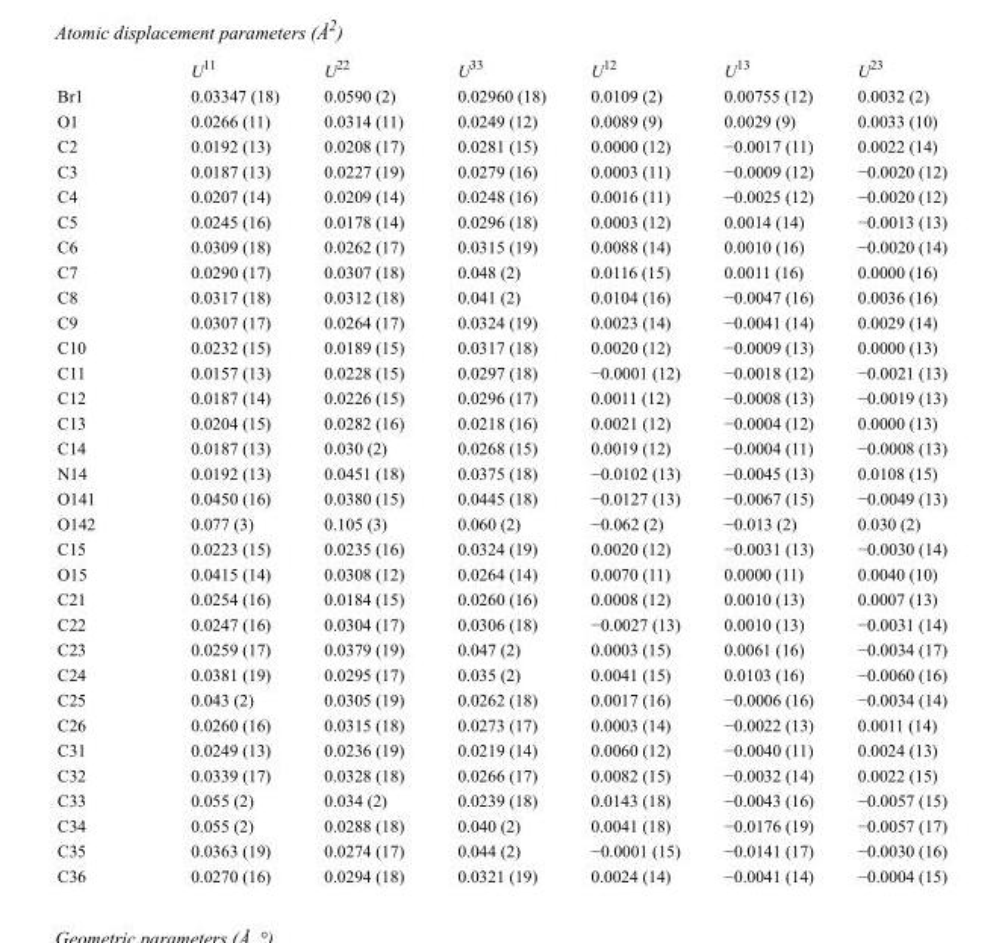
<table><thead><tr><td></td><td>U<sup>11</sup></td><td>U<sup>22</sup></td><td>U<sup>33</sup></td><td>U<sup>12</sup></td><td>U<sup>13</sup></td><td>U<sup>23</sup></td></tr></thead><tbody><tr><td>Br1</td><td>0.03347 (18)</td><td>0.0590 (2)</td><td>0.02960 (18)</td><td>0.0109 (2)</td><td>0.00755 (12)</td><td>0.0032 (2)</td></tr><tr><td>O1</td><td>0.0266 (11)</td><td>0.0314 (11)</td><td>0.0249 (12)</td><td>0.0089 (9)</td><td>0.0029 (9)</td><td>0.0033 (10)</td></tr><tr><td>C2</td><td>0.0192 (13)</td><td>0.0208 (17)</td><td>0.0281 (15)</td><td>0.0000 (12)</td><td>−0.0017 (11)</td><td>0.0022 (14)</td></tr><tr><td>C3</td><td>0.0187 (13)</td><td>0.0227 (19)</td><td>0.0279 (16)</td><td>0.0003 (11)</td><td>−0.0009 (12)</td><td>−0.0020 (12)</td></tr><tr><td>C4</td><td>0.0207 (14)</td><td>0.0209 (14)</td><td>0.0248 (16)</td><td>0.0016 (11)</td><td>−0.0025 (12)</td><td>−0.0020 (12)</td></tr><tr><td>C5</td><td>0.0245 (16)</td><td>0.0178 (14)</td><td>0.0296 (18)</td><td>0.0003 (12)</td><td>0.0014 (14)</td><td>−0.0013 (13)</td></tr><tr><td>C6</td><td>0.0309 (18)</td><td>0.0262 (17)</td><td>0.0315 (19)</td><td>0.0088 (14)</td><td>0.0010 (16)</td><td>−0.0020 (14)</td></tr><tr><td>C7</td><td>0.0290 (17)</td><td>0.0307 (18)</td><td>0.048 (2)</td><td>0.0116 (15)</td><td>0.0011 (16)</td><td>0.0000 (16)</td></tr><tr><td>C8</td><td>0.0317 (18)</td><td>0.0312 (18)</td><td>0.041 (2)</td><td>0.0104 (16)</td><td>−0.0047 (16)</td><td>0.0036 (16)</td></tr><tr><td>C9</td><td>0.0307 (17)</td><td>0.0264 (17)</td><td>0.0324 (19)</td><td>0.0023 (14)</td><td>−0.0041 (14)</td><td>0.0029 (14)</td></tr><tr><td>C10</td><td>0.0232 (15)</td><td>0.0189 (15)</td><td>0.0317 (18)</td><td>0.0020 (12)</td><td>−0.0009 (13)</td><td>0.0000 (13)</td></tr><tr><td>C11</td><td>0.0157 (13)</td><td>0.0228 (15)</td><td>0.0297 (18)</td><td>−0.0001 (12)</td><td>−0.0018 (12)</td><td>−0.0021 (13)</td></tr><tr><td>C12</td><td>0.0187 (14)</td><td>0.0226 (15)</td><td>0.0296 (17)</td><td>0.0011 (12)</td><td>−0.0008 (13)</td><td>−0.0019 (13)</td></tr><tr><td>C13</td><td>0.0204 (15)</td><td>0.0282 (16)</td><td>0.0218 (16)</td><td>0.0021 (12)</td><td>−0.0004 (12)</td><td>0.0000 (13)</td></tr><tr><td>C14</td><td>0.0187 (13)</td><td>0.030 (2)</td><td>0.0268 (15)</td><td>0.0019 (12)</td><td>−0.0004 (11)</td><td>−0.0008 (13)</td></tr><tr><td>N14</td><td>0.0192 (13)</td><td>0.0451 (18)</td><td>0.0375 (18)</td><td>−0.0102 (13)</td><td>−0.0045 (13)</td><td>0.0108 (15)</td></tr><tr><td>O141</td><td>0.0450 (16)</td><td>0.0380 (15)</td><td>0.0445 (18)</td><td>−0.0127 (13)</td><td>−0.0067 (15)</td><td>−0.0049 (13)</td></tr><tr><td>O142</td><td>0.077 (3)</td><td>0.105 (3)</td><td>0.060 (2)</td><td>−0.062 (2)</td><td>−0.013 (2)</td><td>0.030 (2)</td></tr><tr><td>C15</td><td>0.0223 (15)</td><td>0.0235 (16)</td><td>0.0324 (19)</td><td>0.0020 (12)</td><td>−0.0031 (13)</td><td>−0.0030 (14)</td></tr><tr><td>O15</td><td>0.0415 (14)</td><td>0.0308 (12)</td><td>0.0264 (14)</td><td>0.0070 (11)</td><td>0.0000 (11)</td><td>0.0040 (10)</td></tr><tr><td>C21</td><td>0.0254 (16)</td><td>0.0184 (15)</td><td>0.0260 (16)</td><td>0.0008 (12)</td><td>0.0010 (13)</td><td>0.0007 (13)</td></tr><tr><td>C22</td><td>0.0247 (16)</td><td>0.0304 (17)</td><td>0.0306 (18)</td><td>−0.0027 (13)</td><td>0.0010 (13)</td><td>−0.0031 (14)</td></tr><tr><td>C23</td><td>0.0259 (17)</td><td>0.0379 (19)</td><td>0.047 (2)</td><td>0.0003 (15)</td><td>0.0061 (16)</td><td>−0.0034 (17)</td></tr><tr><td>C24</td><td>0.0381 (19)</td><td>0.0295 (17)</td><td>0.035 (2)</td><td>0.0041 (15)</td><td>0.0103 (16)</td><td>−0.0060 (16)</td></tr><tr><td>C25</td><td>0.043 (2)</td><td>0.0305 (19)</td><td>0.0262 (18)</td><td>0.0017 (16)</td><td>−0.0006 (16)</td><td>−0.0034 (14)</td></tr><tr><td>C26</td><td>0.0260 (16)</td><td>0.0315 (18)</td><td>0.0273 (17)</td><td>0.0003 (14)</td><td>−0.0022 (13)</td><td>0.0011 (14)</td></tr><tr><td>C31</td><td>0.0249 (13)</td><td>0.0236 (19)</td><td>0.0219 (14)</td><td>0.0060 (12)</td><td>−0.0040 (11)</td><td>0.0024 (13)</td></tr><tr><td>C32</td><td>0.0339 (17)</td><td>0.0328 (18)</td><td>0.0266 (17)</td><td>0.0082 (15)</td><td>−0.0032 (14)</td><td>0.0022 (15)</td></tr><tr><td>C33</td><td>0.055 (2)</td><td>0.034 (2)</td><td>0.0239 (18)</td><td>0.0143 (18)</td><td>−0.0043 (16)</td><td>−0.0057 (15)</td></tr><tr><td>C34</td><td>0.055 (2)</td><td>0.0288 (18)</td><td>0.040 (2)</td><td>0.0041 (18)</td><td>−0.0176 (19)</td><td>−0.0057 (17)</td></tr><tr><td>C35</td><td>0.0363 (19)</td><td>0.0274 (17)</td><td>0.044 (2)</td><td>−0.0001 (15)</td><td>−0.0141 (17)</td><td>−0.0030 (16)</td></tr><tr><td>C36</td><td>0.0270 (16)</td><td>0.0294 (18)</td><td>0.0321 (19)</td><td>0.0024 (14)</td><td>−0.0041 (14)</td><td>−0.0004 (15)</td></tr></tbody></table>